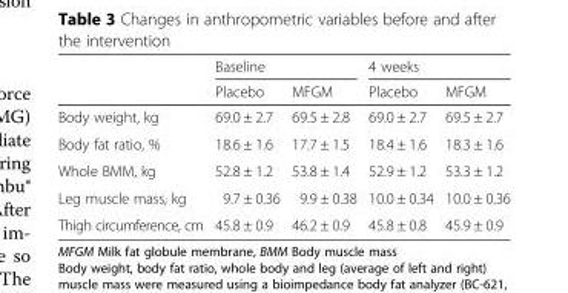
<table><thead><tr><td rowspan="2"></td><td colspan="2">Baseline</td><td colspan="2">4 weeks</td></tr><tr><td>Placebo</td><td>MFGM</td><td>Placebo</td><td>MFGM</td></tr></thead><tbody><tr><td>Body weight, kg</td><td>69.0 ± 2.7</td><td>69.5 ± 2.8</td><td>69.0 ± 2.7</td><td>69.5 ± 2.7</td></tr><tr><td>Body fat ratio, %</td><td>18.6 ± 1.6</td><td>17.7 ± 1.5</td><td>18.4 ± 1.6</td><td>18.3 ± 1.6</td></tr><tr><td>Whole BMM, kg</td><td>52.8 ± 1.2</td><td>53.8 ± 1.4</td><td>52.9 ± 1.2</td><td>53.3 ± 1.2</td></tr><tr><td>Leg muscle mass, kg</td><td>9.7 ± 0.36</td><td>9.9 ± 0.38</td><td>10.0 ± 0.34</td><td>10.0 ± 0.36</td></tr><tr><td>Thigh circumference, cm</td><td>45.8 ± 0.9</td><td>46.2 ± 0.9</td><td>45.8 ± 0.8</td><td>45.9 ± 0.9</td></tr></tbody></table>